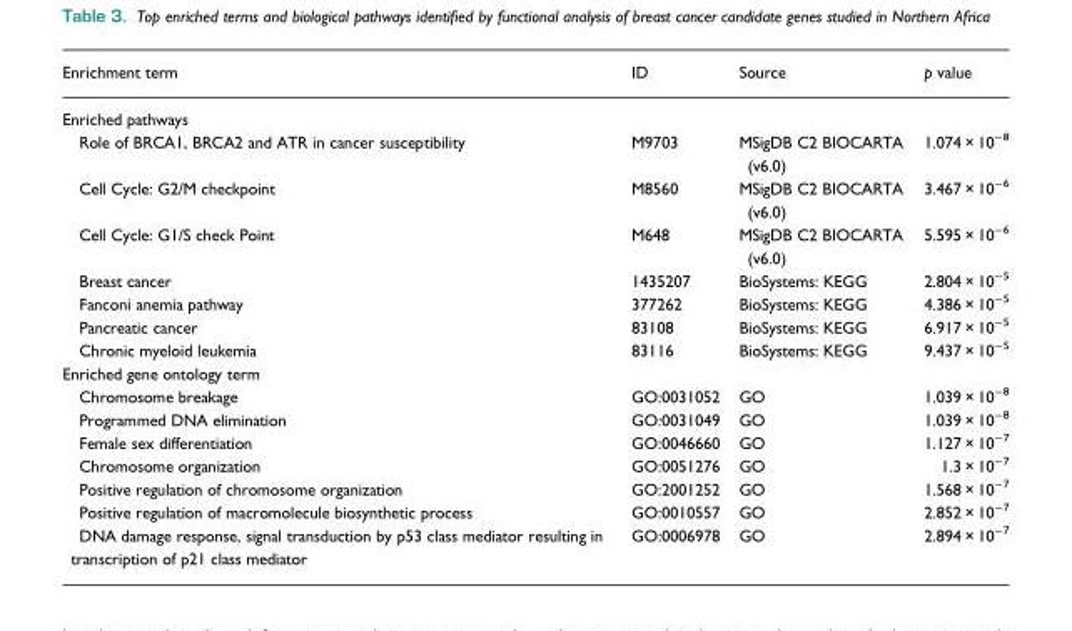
<table><thead><tr><td>Enrichment term</td><td>ID</td><td>Source</td><td>p value</td></tr></thead><tbody><tr><td colspan="4">Enriched pathways</td></tr><tr><td>Role of BRCA1, BRCA2 and ATR in cancer susceptibility</td><td>M9703</td><td>MSigDB C2 BIOCARTA (v6.0)</td><td>1.074 × 10<sup>−8</sup></td></tr><tr><td>Cell Cycle: G2/M checkpoint</td><td>M8560</td><td>MSigDB C2 BIOCARTA (v6.0)</td><td>3.467 × 10<sup>−6</sup></td></tr><tr><td>Cell Cycle: G1/S check Point</td><td>M648</td><td>MSigDB C2 BIOCARTA (v6.0)</td><td>5.595 × 10<sup>−6</sup></td></tr><tr><td>Breast cancer</td><td>1435207</td><td>BioSystems: KEGG</td><td>2.804 × 10<sup>−5</sup></td></tr><tr><td>Fanconi anemia pathway</td><td>377262</td><td>BioSystems: KEGG</td><td>4.386 × 10<sup>−5</sup></td></tr><tr><td>Pancreatic cancer</td><td>83108</td><td>BioSystems: KEGG</td><td>6.917 × 10<sup>−5</sup></td></tr><tr><td>Chronic myeloid leukemia</td><td>83116</td><td>BioSystems: KEGG</td><td>9.437 × 10<sup>−5</sup></td></tr><tr><td colspan="4">Enriched gene ontology term</td></tr><tr><td>Chromosome breakage</td><td>GO:0031052</td><td>GO</td><td>1.039 × 10<sup>−8</sup></td></tr><tr><td>Programmed DNA elimination</td><td>GO:0031049</td><td>GO</td><td>1.039 × 10<sup>−8</sup></td></tr><tr><td>Female sex differentiation</td><td>GO:0046660</td><td>GO</td><td>1.127 × 10<sup>−7</sup></td></tr><tr><td>Chromosome organization</td><td>GO:0051276</td><td>GO</td><td>1.3 × 10<sup>−7</sup></td></tr><tr><td>Positive regulation of chromosome organization</td><td>GO:2001252</td><td>GO</td><td>1.568 × 10<sup>−7</sup></td></tr><tr><td>Positive regulation of macromolecule biosynthetic process</td><td>GO:0010557</td><td>GO</td><td>2.852 × 10<sup>−7</sup></td></tr><tr><td>DNA damage response, signal transduction by p53 class mediator resulting in transcription of p21 class mediator</td><td>GO:0006978</td><td>GO</td><td>2.894 × 10<sup>−7</sup></td></tr></tbody></table>